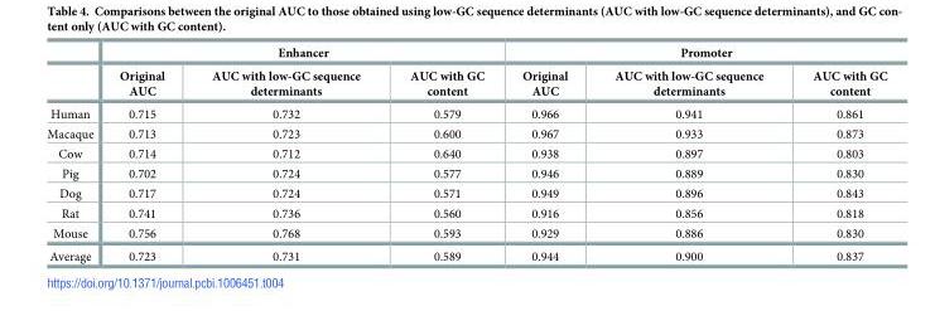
<table><thead><tr><td rowspan="2"></td><td colspan="3">Enhancer</td><td colspan="3">Promoter</td></tr><tr><td>Original AUC</td><td>AUC with low-GC sequence determinants</td><td>AUC with GC content</td><td>Original AUC</td><td>AUC with low-GC sequence determinants</td><td>AUC with GC content</td></tr></thead><tbody><tr><td>Human</td><td>0.715</td><td>0.732</td><td>0.579</td><td>0.966</td><td>0.941</td><td>0.861</td></tr><tr><td>Macaque</td><td>0.713</td><td>0.723</td><td>0.600</td><td>0.967</td><td>0.933</td><td>0.873</td></tr><tr><td>Cow</td><td>0.714</td><td>0.712</td><td>0.640</td><td>0.938</td><td>0.897</td><td>0.803</td></tr><tr><td>Pig</td><td>0.702</td><td>0.724</td><td>0.577</td><td>0.946</td><td>0.889</td><td>0.830</td></tr><tr><td>Dog</td><td>0.717</td><td>0.724</td><td>0.571</td><td>0.949</td><td>0.896</td><td>0.843</td></tr><tr><td>Rat</td><td>0.741</td><td>0.736</td><td>0.560</td><td>0.916</td><td>0.856</td><td>0.818</td></tr><tr><td>Mouse</td><td>0.756</td><td>0.768</td><td>0.593</td><td>0.929</td><td>0.886</td><td>0.830</td></tr><tr><td>Average</td><td>0.723</td><td>0.731</td><td>0.589</td><td>0.944</td><td>0.900</td><td>0.837</td></tr></tbody></table>